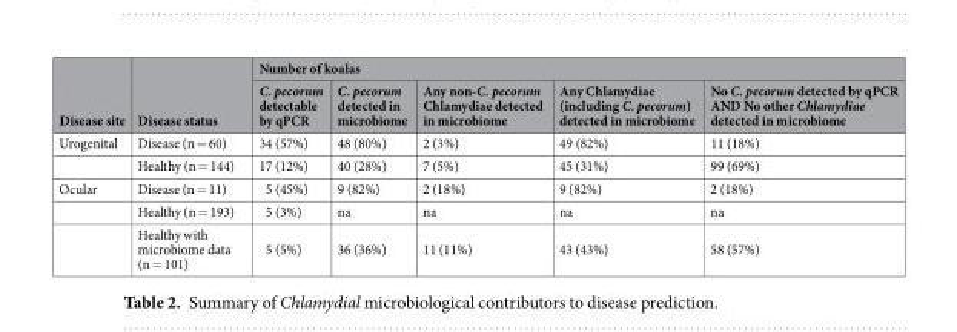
<table><thead><tr><td rowspan="2">Disease site</td><td rowspan="2">Disease status</td><td colspan="5">Number of koalas</td></tr><tr><td>C. pecorum detectable by qPCR</td><td>C. pecorum detected in microbiome</td><td>Any non-C. pecorum Chlamydiae detected in microbiome</td><td>Any Chlamydiae (including C. pecorum) detected in microbiome</td><td>No C. pecorum detected by qPCR AND No other Chlamydiae detected in microbiome</td></tr></thead><tbody><tr><td rowspan="2">Urogenital</td><td>Disease (n = 60)</td><td>34 (57%)</td><td>48 (80%)</td><td>2 (3%)</td><td>49 (82%)</td><td>11 (18%)</td></tr><tr><td>Healthy (n = 144)</td><td>17 (12%)</td><td>40 (28%)</td><td>7 (5%)</td><td>45 (31%)</td><td>99 (69%)</td></tr><tr><td rowspan="3">Ocular</td><td>Disease (n = 11)</td><td>5 (45%)</td><td>9 (82%)</td><td>2 (18%)</td><td>9 (82%)</td><td>2 (18%)</td></tr><tr><td>Healthy (n = 193)</td><td>5 (3%)</td><td>na</td><td>na</td><td>na</td><td>na</td></tr><tr><td>Healthy with microbiome data (n = 101)</td><td>5 (5%)</td><td>36 (36%)</td><td>11 (11%)</td><td>43 (43%)</td><td>58 (57%)</td></tr></tbody></table>